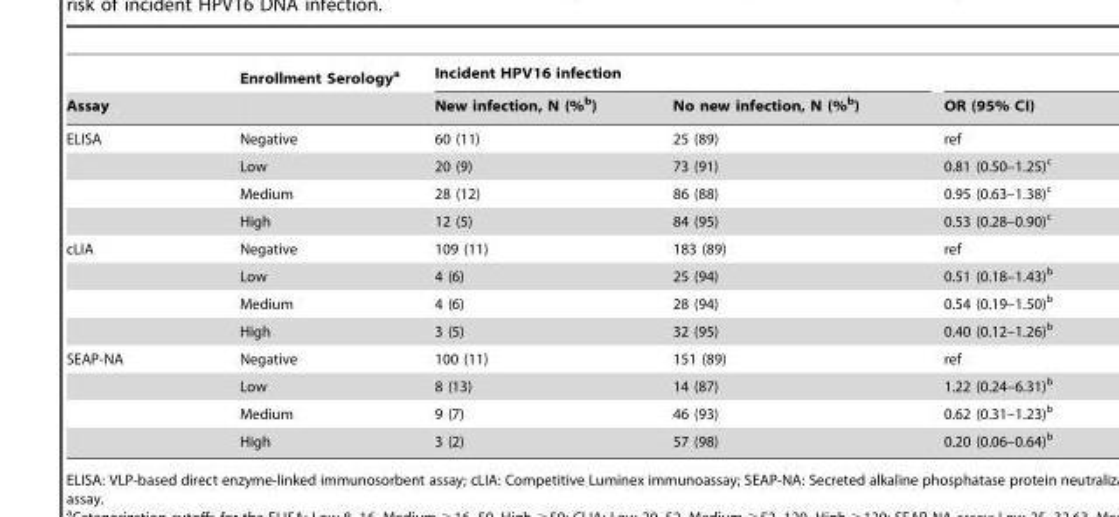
<table><thead><tr><td rowspan="2">Assay</td><td rowspan="2">Enrollment Serology<sup>a</sup></td><td colspan="2">Incident HPV16 infection</td><td rowspan="2">OR (95% CI)</td></tr><tr><td>New infection, N (%<sup>b</sup>)</td><td>No new infection, N (%<sup>b</sup>)</td></tr></thead><tbody><tr><td rowspan="4">ELISA</td><td>Negative</td><td>60 (11)</td><td>25 (89)</td><td>ref</td></tr><tr><td>Low</td><td>20 (9)</td><td>73 (91)</td><td>0.81 (0.50–1.25)<sup>c</sup></td></tr><tr><td>Medium</td><td>28 (12)</td><td>86 (88)</td><td>0.95 (0.63–1.38)<sup>c</sup></td></tr><tr><td>High</td><td>12 (5)</td><td>84 (95)</td><td>0.53 (0.28–0.90)<sup>c</sup></td></tr><tr><td rowspan="4">cLIA</td><td>Negative</td><td>109 (11)</td><td>183 (89)</td><td>ref</td></tr><tr><td>Low</td><td>4 (6)</td><td>25 (94)</td><td>0.51 (0.18–1.43)<sup>b</sup></td></tr><tr><td>Medium</td><td>4 (6)</td><td>28 (94)</td><td>0.54 (0.19–1.50)<sup>b</sup></td></tr><tr><td>High</td><td>3 (5)</td><td>32 (95)</td><td>0.40 (0.12–1.26)<sup>b</sup></td></tr><tr><td rowspan="4">SEAP-NA</td><td>Negative</td><td>100 (11)</td><td>151 (89)</td><td>ref</td></tr><tr><td>Low</td><td>8 (13)</td><td>14 (87)</td><td>1.22 (0.24–6.31)<sup>b</sup></td></tr><tr><td>Medium</td><td>9 (7)</td><td>46 (93)</td><td>0.62 (0.31–1.23)<sup>b</sup></td></tr><tr><td>High</td><td>3 (2)</td><td>57 (98)</td><td>0.20 (0.06–0.64)<sup>b</sup></td></tr></tbody></table>